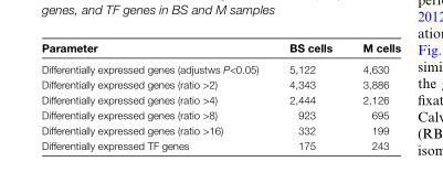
<table><thead><tr><td>Parameter</td><td>BS cells</td><td>M cells</td></tr></thead><tbody><tr><td>Differentially expressed genes (adjustws P&lt;0.05)</td><td>5,122</td><td>4,630</td></tr><tr><td>Differentially expressed genes (ratio &gt;2)</td><td>4,343</td><td>3,886</td></tr><tr><td>Differentially expressed genes (ratio &gt;4)</td><td>2,444</td><td>2,126</td></tr><tr><td>Differentially expressed genes (ratio &gt;8)</td><td>923</td><td>695</td></tr><tr><td>Differentially expressed genes (ratio &gt;16)</td><td>332</td><td>199</td></tr><tr><td>Differentially expressed TF genes</td><td>175</td><td>243</td></tr></tbody></table>